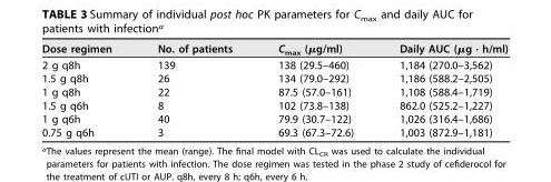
<table><thead><tr><td>Dose regimen</td><td>No. of patients</td><td>C<sub>max</sub> (μg/ml)</td><td>Daily AUC (μg · h/ml)</td></tr></thead><tbody><tr><td>2 g q8h</td><td>139</td><td>138 (29.5–460)</td><td>1,184 (270.0–3,562)</td></tr><tr><td>1.5 g q8h</td><td>26</td><td>134 (79.0–292)</td><td>1,186 (588.2–2,505)</td></tr><tr><td>1 g q8h</td><td>22</td><td>87.5 (57.0–161)</td><td>1,108 (588.4–1,719)</td></tr><tr><td>1.5 g q6h</td><td>8</td><td>102 (73.8–138)</td><td>862.0 (525.2–1,227)</td></tr><tr><td>1 g q6h</td><td>40</td><td>79.9 (30.7–122)</td><td>1,026 (316.4–1,686)</td></tr><tr><td>0.75 g q6h</td><td>3</td><td>69.3 (67.3–72.6)</td><td>1,003 (872.9–1,181)</td></tr></tbody></table>